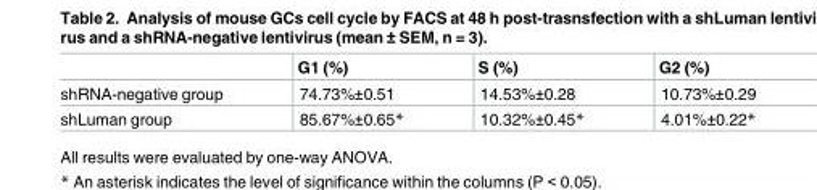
<table><thead><tr><td></td><td>G1 (%)</td><td>S (%)</td><td>G2 (%)</td></tr></thead><tbody><tr><td>shRNA-negative group</td><td>74.73%±0.51</td><td>14.53%±0.28</td><td>10.73%±0.29</td></tr><tr><td>shLuman group</td><td>85.67%±0.65*</td><td>10.32%±0.45*</td><td>4.01%±0.22*</td></tr></tbody></table>